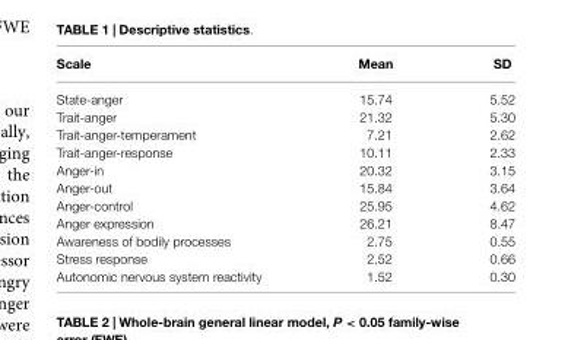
<table><thead><tr><td>Scale</td><td>Mean</td><td>SD</td></tr></thead><tbody><tr><td>State-anger</td><td>15.74</td><td>5.52</td></tr><tr><td>Trait-anger</td><td>21.32</td><td>5.30</td></tr><tr><td>Trait-anger-temperament</td><td>7.21</td><td>2.62</td></tr><tr><td>Trait-anger-response</td><td>10.11</td><td>2.33</td></tr><tr><td>Anger-in</td><td>20.32</td><td>3.15</td></tr><tr><td>Anger-out</td><td>15.84</td><td>3.64</td></tr><tr><td>Anger-control</td><td>25.95</td><td>4.62</td></tr><tr><td>Anger expression</td><td>26.21</td><td>8.47</td></tr><tr><td>Awareness of bodily processes</td><td>2.75</td><td>0.55</td></tr><tr><td>Stress response</td><td>2.52</td><td>0.66</td></tr><tr><td>Autonomic nervous system reactivity</td><td>1.52</td><td>0.30</td></tr></tbody></table>